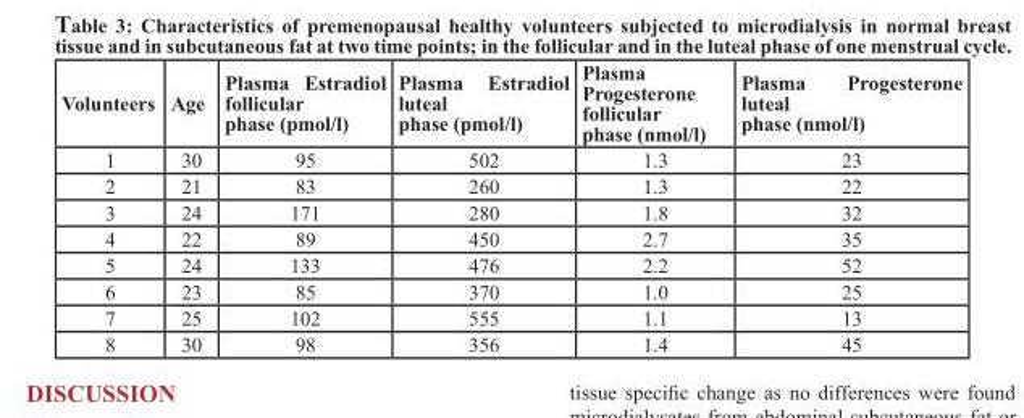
<table><thead><tr><td>Volunteers</td><td>Age</td><td>Plasma Estradiol follicular phase (pmol/l)</td><td>Plasma Estradiol luteal phase (pmol/l)</td><td>Plasma Progesterone follicular phase (nmol/l)</td><td>Plasma Progesterone luteal phase (nmol/l)</td></tr></thead><tbody><tr><td>1</td><td>30</td><td>95</td><td>502</td><td>1.3</td><td>23</td></tr><tr><td>2</td><td>21</td><td>83</td><td>260</td><td>1.3</td><td>22</td></tr><tr><td>3</td><td>24</td><td>171</td><td>280</td><td>1.8</td><td>32</td></tr><tr><td>4</td><td>22</td><td>89</td><td>450</td><td>2.7</td><td>35</td></tr><tr><td>5</td><td>24</td><td>133</td><td>476</td><td>2.2</td><td>52</td></tr><tr><td>6</td><td>23</td><td>85</td><td>370</td><td>1.0</td><td>25</td></tr><tr><td>7</td><td>25</td><td>102</td><td>555</td><td>1.1</td><td>13</td></tr><tr><td>8</td><td>30</td><td>98</td><td>356</td><td>1.4</td><td>45</td></tr></tbody></table>